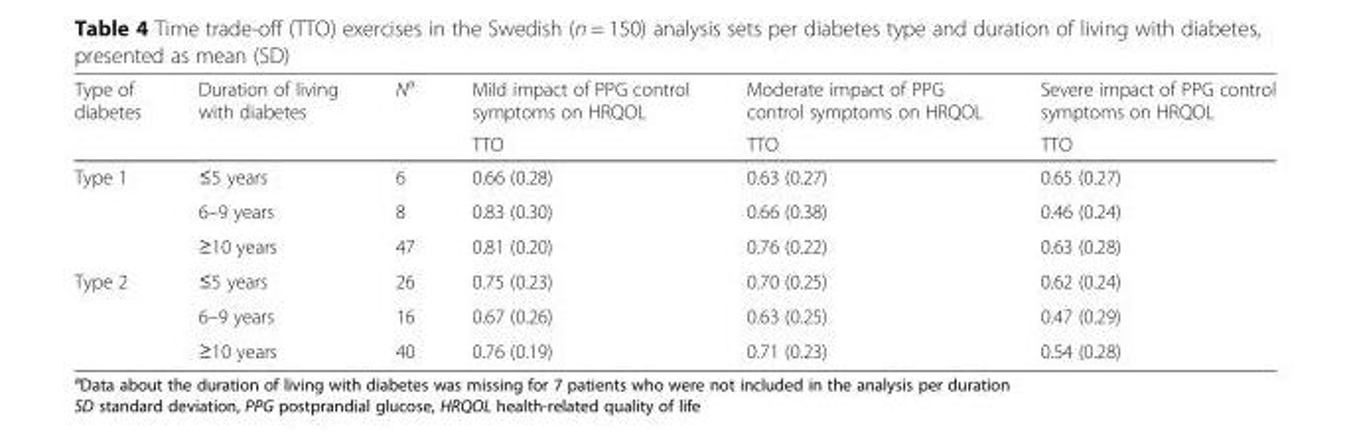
<table><thead><tr><td rowspan="2">Type of diabetes</td><td rowspan="2">Duration of living with diabetes</td><td rowspan="2">N<sup>a</sup></td><td rowspan="2">Mild impact of PPG control symptoms on HRQOL TTO</td><td rowspan="2">Moderate impact of PPG control symptoms on HRQOL TTO</td><td rowspan="2">Severe impact of PPG control symptoms on HRQOL TTO</td></tr><tr></tr></thead><tbody><tr><td rowspan="3">Type 1</td><td>≤5 years</td><td>6</td><td>0.66 (0.28)</td><td>0.63 (0.27)</td><td>0.65 (0.27)</td></tr><tr><td>6–9 years</td><td>8</td><td>0.83 (0.30)</td><td>0.66 (0.38)</td><td>0.46 (0.24)</td></tr><tr><td>≥10 years</td><td>47</td><td>0.81 (0.20)</td><td>0.76 (0.22)</td><td>0.63 (0.28)</td></tr><tr><td rowspan="3">Type 2</td><td>≤5 years</td><td>26</td><td>0.75 (0.23)</td><td>0.70 (0.25)</td><td>0.62 (0.24)</td></tr><tr><td>6–9 years</td><td>16</td><td>0.67 (0.26)</td><td>0.63 (0.25)</td><td>0.47 (0.29)</td></tr><tr><td>≥10 years</td><td>40</td><td>0.76 (0.19)</td><td>0.71 (0.23)</td><td>0.54 (0.28)</td></tr></tbody></table>